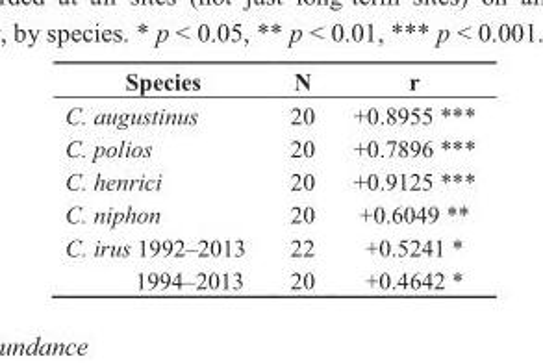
<table><thead><tr><td>Species</td><td>N</td><td>r</td></tr></thead><tbody><tr><td>C. augustinus</td><td>20</td><td>+0.8955 ***</td></tr><tr><td>C. polios</td><td>20</td><td>+0.7896 ***</td></tr><tr><td>C. henrici</td><td>20</td><td>+0.9125 ***</td></tr><tr><td>C. niphon</td><td>20</td><td>+0.6049 **</td></tr><tr><td>C. irus 1992–2013</td><td>22</td><td>+0.5241 *</td></tr><tr><td>1994–2013</td><td>20</td><td>+0.4642 *</td></tr></tbody></table>